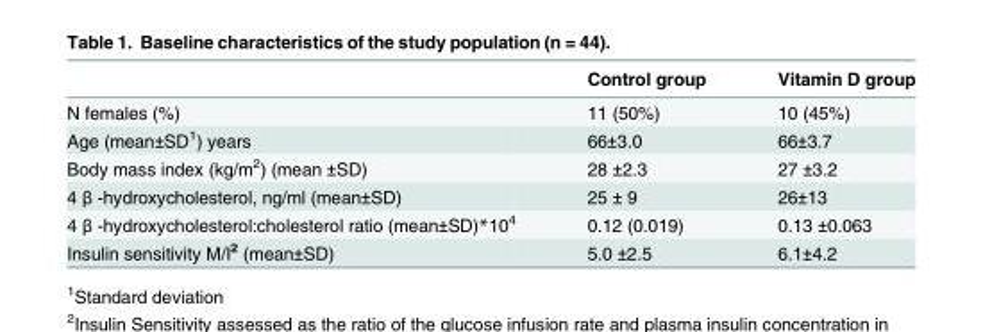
<table><thead><tr><td></td><td>Control group</td><td>Vitamin D group</td></tr></thead><tbody><tr><td>N females (%)</td><td>11 (50%)</td><td>10 (45%)</td></tr><tr><td>Age (mean±SD<sup>1</sup>) years</td><td>66±3.0</td><td>66±3.7</td></tr><tr><td>Body mass index (kg/m<sup>2</sup>) (mean ±SD)</td><td>28 ±2.3</td><td>27 ±3.2</td></tr><tr><td>4 β -hydroxycholesterol, ng/ml (mean±SD)</td><td>25 ± 9</td><td>26±13</td></tr><tr><td>4 β -hydroxycholesterol:cholesterol ratio (mean±SD)*10<sup>4</sup></td><td>0.12 (0.019)</td><td>0.13 ±0.063</td></tr><tr><td>Insulin sensitivity M/I<sup>2</sup> (mean±SD)</td><td>5.0 ±2.5</td><td>6.1±4.2</td></tr></tbody></table>